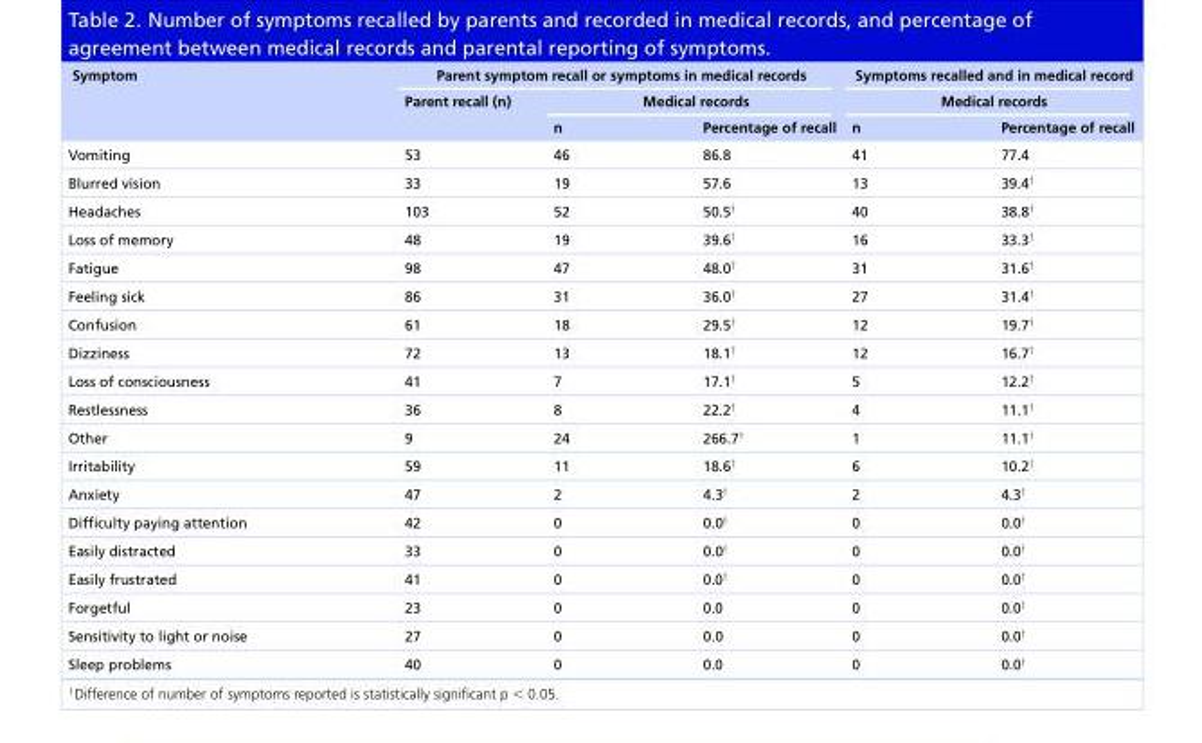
<table><thead><tr><td rowspan="3">Symptom</td><td colspan="3">Parent symptom recall or symptoms in medical records</td><td rowspan="2" colspan="2">Symptoms recalled and in medical record Medical records</td></tr><tr><td rowspan="2">Parent recall (n)</td><td colspan="2">Medical records</td></tr><tr><td>n</td><td>Percentage of recall</td><td>n</td><td>Percentage of recall</td></tr></thead><tbody><tr><td>Vomiting</td><td>53</td><td>46</td><td>86.8</td><td>41</td><td>77.4</td></tr><tr><td>Blurred vision</td><td>33</td><td>19</td><td>57.6</td><td>13</td><td>39.4<sup>†</sup></td></tr><tr><td>Headaches</td><td>103</td><td>52</td><td>50.5<sup>†</sup></td><td>40</td><td>38.8<sup>†</sup></td></tr><tr><td>Loss of memory</td><td>48</td><td>19</td><td>39.6<sup>†</sup></td><td>16</td><td>33.3<sup>†</sup></td></tr><tr><td>Fatigue</td><td>98</td><td>47</td><td>48.0<sup>†</sup></td><td>31</td><td>31.6<sup>†</sup></td></tr><tr><td>Feeling sick</td><td>86</td><td>31</td><td>36.0<sup>†</sup></td><td>27</td><td>31.4<sup>†</sup></td></tr><tr><td>Confusion</td><td>61</td><td>18</td><td>29.5<sup>†</sup></td><td>12</td><td>19.7<sup>†</sup></td></tr><tr><td>Dizziness</td><td>72</td><td>13</td><td>18.1<sup>†</sup></td><td>12</td><td>16.7<sup>†</sup></td></tr><tr><td>Loss of consciousness</td><td>41</td><td>7</td><td>17.1<sup>†</sup></td><td>5</td><td>12.2<sup>†</sup></td></tr><tr><td>Restlessness</td><td>36</td><td>8</td><td>22.2<sup>†</sup></td><td>4</td><td>11.1<sup>†</sup></td></tr><tr><td>Other</td><td>9</td><td>24</td><td>266.7<sup>†</sup></td><td>1</td><td>11.1<sup>†</sup></td></tr><tr><td>Irritability</td><td>59</td><td>11</td><td>18.6<sup>†</sup></td><td>6</td><td>10.2<sup>†</sup></td></tr><tr><td>Anxiety</td><td>47</td><td>2</td><td>4.3<sup>†</sup></td><td>2</td><td>4.3<sup>†</sup></td></tr><tr><td>Difficulty paying attention</td><td>42</td><td>0</td><td>0.0<sup>†</sup></td><td>0</td><td>0.0<sup>†</sup></td></tr><tr><td>Easily distracted</td><td>33</td><td>0</td><td>0.0<sup>†</sup></td><td>0</td><td>0.0<sup>†</sup></td></tr><tr><td>Easily frustrated</td><td>41</td><td>0</td><td>0.0<sup>†</sup></td><td>0</td><td>0.0<sup>†</sup></td></tr><tr><td>Forgetful</td><td>23</td><td>0</td><td>0.0</td><td>0</td><td>0.0<sup>†</sup></td></tr><tr><td>Sensitivity to light or noise</td><td>27</td><td>0</td><td>0.0</td><td>0</td><td>0.0<sup>†</sup></td></tr><tr><td>Sleep problems</td><td>40</td><td>0</td><td>0.0</td><td>0</td><td>0.0<sup>†</sup></td></tr></tbody></table>